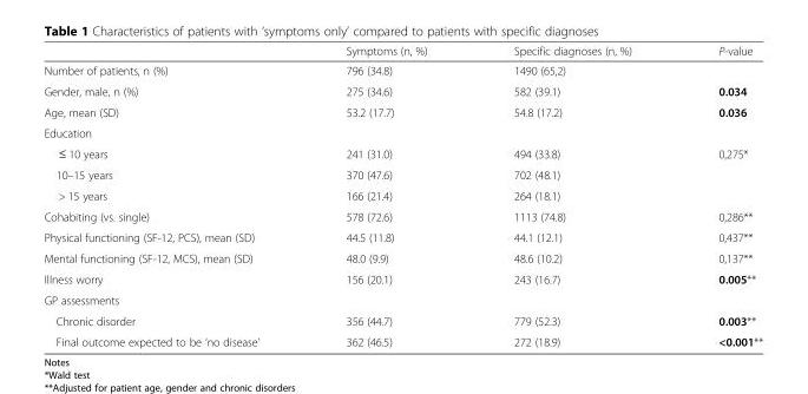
<table><thead><tr><td></td><td>Symptoms (n, %)</td><td>Specific diagnoses (n, %)</td><td>P-value</td></tr></thead><tbody><tr><td>Number of patients, n (%)</td><td>796 (34.8)</td><td>1490 (65,2)</td><td></td></tr><tr><td>Gender, male, n (%)</td><td>275 (34.6)</td><td>582 (39.1)</td><td>0.034</td></tr><tr><td>Age, mean (SD)</td><td>53.2 (17.7)</td><td>54.8 (17.2)</td><td>0.036</td></tr><tr><td colspan="4">Education</td></tr><tr><td>≤ 10 years</td><td>241 (31.0)</td><td>494 (33.8)</td><td rowspan="3">0,275*</td></tr><tr><td>10–15 years</td><td>370 (47.6)</td><td>702 (48.1)</td></tr><tr><td>&gt; 15 years</td><td>166 (21.4)</td><td>264 (18.1)</td></tr><tr><td>Cohabiting (vs. single)</td><td>578 (72.6)</td><td>1113 (74.8)</td><td>0,286**</td></tr><tr><td>Physical functioning (SF-12, PCS), mean (SD)</td><td>44.5 (11.8)</td><td>44.1 (12.1)</td><td>0,437**</td></tr><tr><td>Mental functioning (SF-12, MCS), mean (SD)</td><td>48.0 (9.9)</td><td>48.6 (10.2)</td><td>0,137**</td></tr><tr><td>Illness worry</td><td>156 (20.1)</td><td>243 (16.7)</td><td>0.005**</td></tr><tr><td colspan="4">GP assessments</td></tr><tr><td>Chronic disorder</td><td>356 (44.7)</td><td>779 (52.3)</td><td>0.003**</td></tr><tr><td>Final outcome expected to be ‘no disease’</td><td>362 (46.5)</td><td>272 (18.9)</td><td>&lt;0.001**</td></tr></tbody></table>